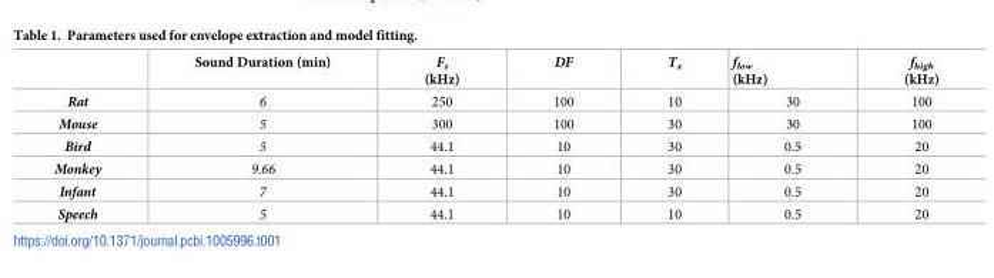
<table><thead><tr><td></td><td>Sound Duration (min)</td><td>F<sub>s</sub> (kHz)</td><td>DF</td><td>T<sub>x</sub></td><td>f<sub>low</sub> (kHz)</td><td>f<sub>high</sub> (kHz)</td></tr></thead><tbody><tr><td>Rat</td><td>6</td><td>250</td><td>100</td><td>10</td><td>30</td><td>100</td></tr><tr><td>Mouse</td><td>5</td><td>300</td><td>100</td><td>30</td><td>30</td><td>100</td></tr><tr><td>Bird</td><td>5</td><td>44.1</td><td>10</td><td>30</td><td>0.5</td><td>20</td></tr><tr><td>Monkey</td><td>9.66</td><td>44.1</td><td>10</td><td>30</td><td>0.5</td><td>20</td></tr><tr><td>Infant</td><td>7</td><td>44.1</td><td>10</td><td>30</td><td>0.5</td><td>20</td></tr><tr><td>Speech</td><td>5</td><td>44.1</td><td>10</td><td>10</td><td>0.5</td><td>20</td></tr></tbody></table>